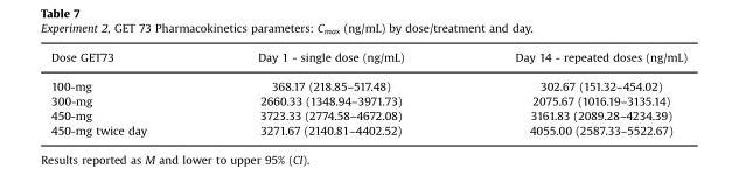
<table><thead><tr><td>Dose GET73</td><td>Day 1 - single dose (ng/mL)</td><td>Day 14 - repeated doses (ng/mL)</td></tr></thead><tbody><tr><td>100-mg</td><td>368.17 (218.85–517.48)</td><td>302.67 (151.32–454.02)</td></tr><tr><td>300-mg</td><td>2660.33 (1348.94–3971.73)</td><td>2075.67 (1016.19–3135.14)</td></tr><tr><td>450-mg</td><td>3723.33 (2774.58–4672.08)</td><td>3161.83 (2089.28–4234.39)</td></tr><tr><td>450-mg twice day</td><td>3271.67 (2140.81–4402.52)</td><td>4055.00 (2587.33–5522.67)</td></tr></tbody></table>